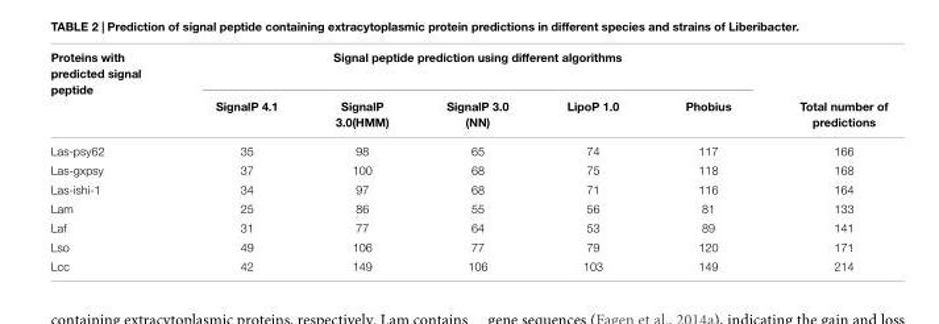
<table><thead><tr><td rowspan="2">Proteins with predicted signal peptide</td><td colspan="5">Signal peptide prediction using different algorithms</td><td rowspan="2">Total number of predictions</td></tr><tr><td>SignalP 4.1</td><td>SignalP 3.0(HMM)</td><td>SignalP 3.0 (NN)</td><td>LipoP 1.0</td><td>Phobius</td></tr></thead><tbody><tr><td>Las-psy62</td><td>35</td><td>98</td><td>65</td><td>74</td><td>117</td><td>166</td></tr><tr><td>Las-gxpsy</td><td>37</td><td>100</td><td>68</td><td>75</td><td>118</td><td>168</td></tr><tr><td>Las-ishi-1</td><td>34</td><td>97</td><td>68</td><td>71</td><td>116</td><td>164</td></tr><tr><td>Lam</td><td>25</td><td>86</td><td>55</td><td>56</td><td>81</td><td>133</td></tr><tr><td>Laf</td><td>31</td><td>77</td><td>64</td><td>53</td><td>89</td><td>141</td></tr><tr><td>Lso</td><td>49</td><td>106</td><td>77</td><td>79</td><td>120</td><td>171</td></tr><tr><td>Lcc</td><td>42</td><td>149</td><td>106</td><td>103</td><td>149</td><td>214</td></tr></tbody></table>